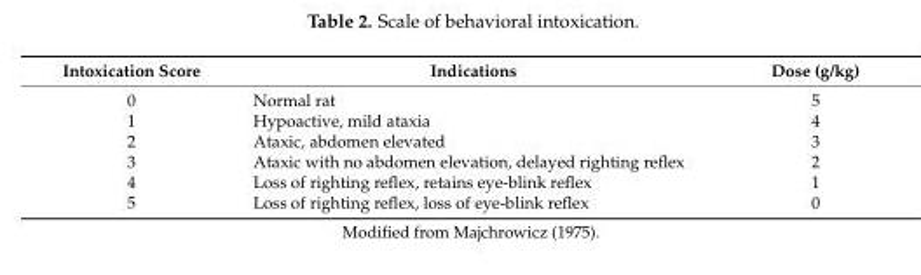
<table><thead><tr><td>Intoxication Score</td><td>Indications</td><td>Dose (g/kg)</td></tr></thead><tbody><tr><td>0</td><td>Normal rat</td><td>5</td></tr><tr><td>1</td><td>Hypoactive, mild ataxia</td><td>4</td></tr><tr><td>2</td><td>Ataxic, abdomen elevated</td><td>3</td></tr><tr><td>3</td><td>Ataxic with no abdomen elevation, delayed righting reflex</td><td>2</td></tr><tr><td>4</td><td>Loss of righting reflex, retains eye-blink reflex</td><td>1</td></tr><tr><td>5</td><td>Loss of righting reflex, loss of eye-blink reflex</td><td>0</td></tr></tbody></table>